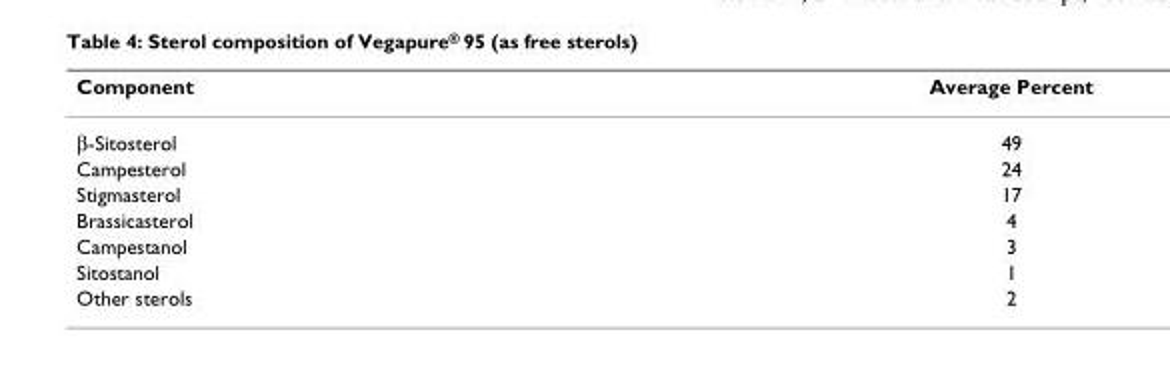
<table><thead><tr><td>Component</td><td>Average Percent</td></tr></thead><tbody><tr><td>β-Sitosterol</td><td>49</td></tr><tr><td>Campesterol</td><td>24</td></tr><tr><td>Stigmasterol</td><td>17</td></tr><tr><td>Brassicasterol</td><td>4</td></tr><tr><td>Campestanol</td><td>3</td></tr><tr><td>Sitostanol</td><td>1</td></tr><tr><td>Other sterols</td><td>2</td></tr></tbody></table>